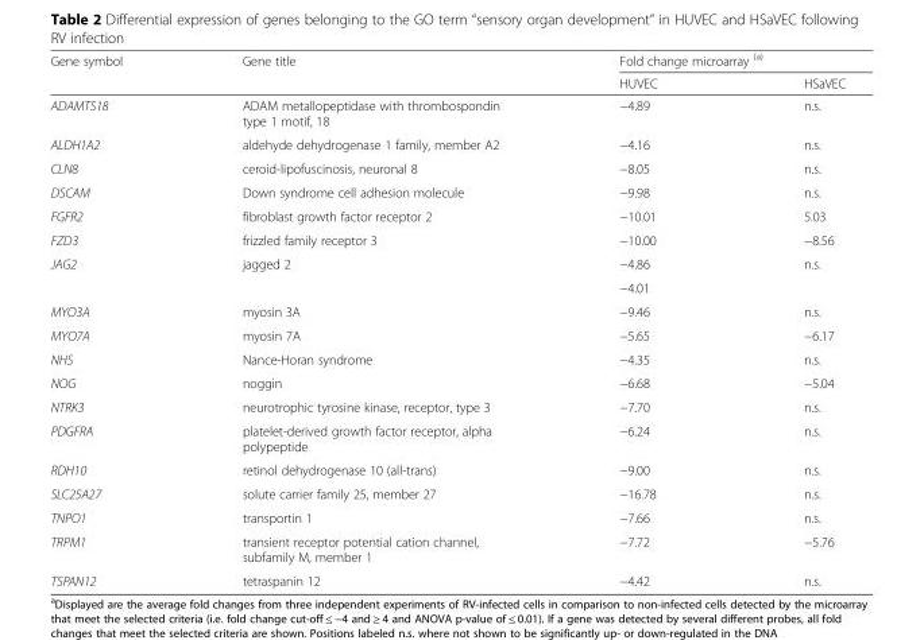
<table><thead><tr><td rowspan="2">Gene symbol</td><td rowspan="2">Gene title</td><td colspan="2">Fold change microarray <sup>(a)</sup></td></tr><tr><td>HUVEC</td><td>HSaVEC</td></tr></thead><tbody><tr><td>ADAMTS18</td><td>ADAM metallopeptidase with thrombospondin type 1 motif, 18</td><td>−4.89</td><td>n.s.</td></tr><tr><td>ALDH1A2</td><td>aldehyde dehydrogenase 1 family, member A2</td><td>−4.16</td><td>n.s.</td></tr><tr><td>CLN8</td><td>ceroid-lipofuscinosis, neuronal 8</td><td>−8.05</td><td>n.s.</td></tr><tr><td>DSCAM</td><td>Down syndrome cell adhesion molecule</td><td>−9.98</td><td>n.s.</td></tr><tr><td>FGFR2</td><td>fibroblast growth factor receptor 2</td><td>−10.01</td><td>5.03</td></tr><tr><td>FZD3</td><td>frizzled family receptor 3</td><td>−10.00</td><td>−8.56</td></tr><tr><td rowspan="2">JAG2</td><td rowspan="2">jagged 2</td><td>−4.86</td><td rowspan="2">n.s.</td></tr><tr><td>−4.01</td></tr><tr><td>MYO3A</td><td>myosin 3A</td><td>−9.46</td><td>n.s.</td></tr><tr><td>MYO7A</td><td>myosin 7A</td><td>−5.65</td><td>−6.17</td></tr><tr><td>NHS</td><td>Nance-Horan syndrome</td><td>−4.35</td><td>n.s.</td></tr><tr><td>NOG</td><td>noggin</td><td>−6.68</td><td>−5.04</td></tr><tr><td>NTRK3</td><td>neurotrophic tyrosine kinase, receptor, type 3</td><td>−7.70</td><td>n.s.</td></tr><tr><td>PDGFRA</td><td>platelet-derived growth factor receptor, alpha polypeptide</td><td>−6.24</td><td>n.s.</td></tr><tr><td>RDH10</td><td>retinol dehydrogenase 10 (all-trans)</td><td>−9.00</td><td>n.s.</td></tr><tr><td>SLC25A27</td><td>solute carrier family 25, member 27</td><td>−16.78</td><td>n.s.</td></tr><tr><td>TNPO1</td><td>transportin 1</td><td>−7.66</td><td>n.s.</td></tr><tr><td>TRPM1</td><td>transient receptor potential cation channel, subfamily M, member 1</td><td>−7.72</td><td>−5.76</td></tr><tr><td>TSPAN12</td><td>tetraspanin 12</td><td>−4.42</td><td>n.s.</td></tr></tbody></table>